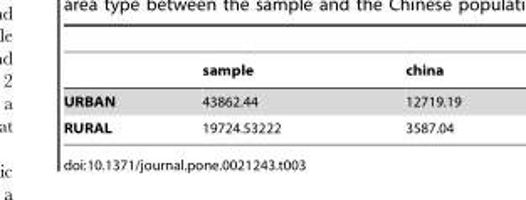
<table><thead><tr><td></td><td>sample</td><td>china</td></tr></thead><tbody><tr><td>URBAN</td><td>43862.44</td><td>12719.19</td></tr><tr><td>RURAL</td><td>19724.53222</td><td>3587.04</td></tr></tbody></table>